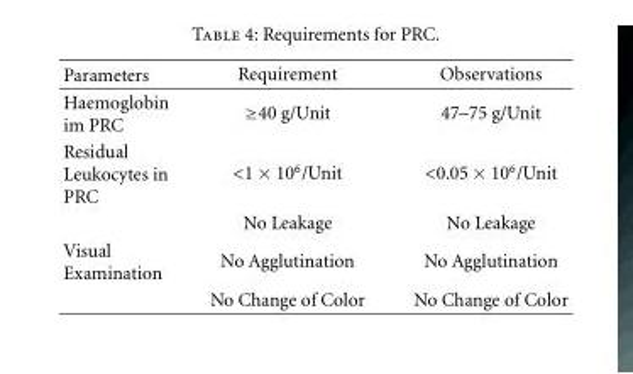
<table><thead><tr><td>Parameters</td><td>Requirement</td><td>Observations</td></tr></thead><tbody><tr><td>Haemoglobin im PRC</td><td>≥40 g/Unit</td><td>47–75 g/Unit</td></tr><tr><td rowspan="2">Residual Leukocytes in PRC</td><td>&lt;1 × 10<sup>6</sup>/Unit</td><td>&lt;0.05 × 10<sup>6</sup>/Unit</td></tr><tr><td>No Leakage</td><td>No Leakage</td></tr><tr><td rowspan="2">Visual Examination</td><td>No Agglutination</td><td>No Agglutination</td></tr><tr><td>No Change of Color</td><td>No Change of Color</td></tr></tbody></table>